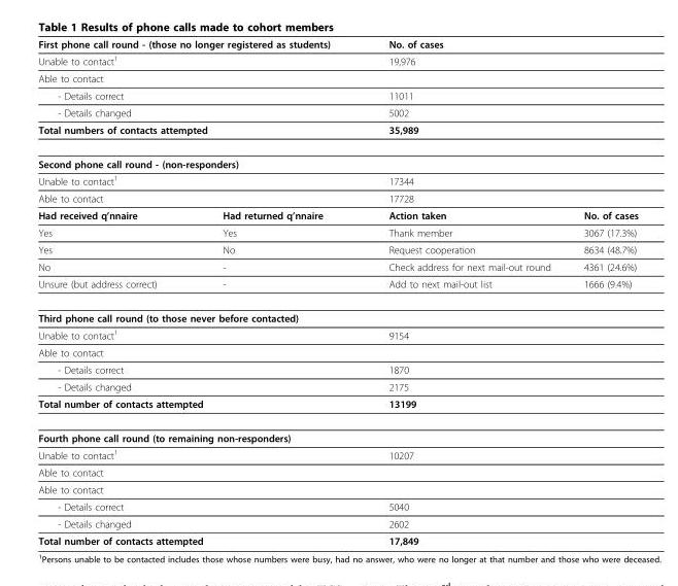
<table><thead><tr><td colspan="2">First phone call round - (those no longer registered as students)</td><td colspan="2">No. of cases</td></tr></thead><tbody><tr><td colspan="2">Unable to contact1</td><td colspan="2">19,976</td></tr><tr><td colspan="4">Able to contact</td></tr><tr><td colspan="2">- Details correct</td><td colspan="2">11011</td></tr><tr><td colspan="2">- Details changed</td><td colspan="2">5002</td></tr><tr><td colspan="2">Total numbers of contacts attempted</td><td colspan="2">35,989</td></tr><tr><td colspan="4">Second phone call round - (non-responders)</td></tr><tr><td colspan="2">Unable to contact1</td><td colspan="2">17344</td></tr><tr><td colspan="2">Able to contact</td><td colspan="2">17728</td></tr><tr><td>Had received q’nnaire</td><td>Had returned q’nnaire</td><td>Action taken</td><td>No. of cases</td></tr><tr><td>Yes</td><td>Yes</td><td>Thank member</td><td>3067 (17.3%)</td></tr><tr><td>Yes</td><td>No</td><td>Request cooperation</td><td>8634 (48.7%)</td></tr><tr><td>No</td><td>-</td><td>Check address for next mail-out round</td><td>4361 (24.6%)</td></tr><tr><td>Unsure (but address correct)</td><td>-</td><td>Add to next mail-out list</td><td>1666 (9.4%)</td></tr><tr><td colspan="4">Third phone call round (to those never before contacted)</td></tr><tr><td colspan="2">Unable to contact1</td><td colspan="2">9154</td></tr><tr><td colspan="4">Able to contact</td></tr><tr><td colspan="2">- Details correct</td><td colspan="2">1870</td></tr><tr><td colspan="2">- Details changed</td><td colspan="2">2175</td></tr><tr><td colspan="2">Total number of contacts attempted</td><td colspan="2">13199</td></tr><tr><td colspan="4">Fourth phone call round (to remaining non-responders)</td></tr><tr><td colspan="2">Unable to contact1</td><td colspan="2">10207</td></tr><tr><td colspan="4">Able to contact</td></tr><tr><td colspan="4">Able to contact</td></tr><tr><td colspan="2">- Details correct</td><td colspan="2">5040</td></tr><tr><td colspan="2">- Details changed</td><td colspan="2">2602</td></tr><tr><td colspan="2">Total number of contacts attempted</td><td colspan="2">17,849</td></tr></tbody></table>